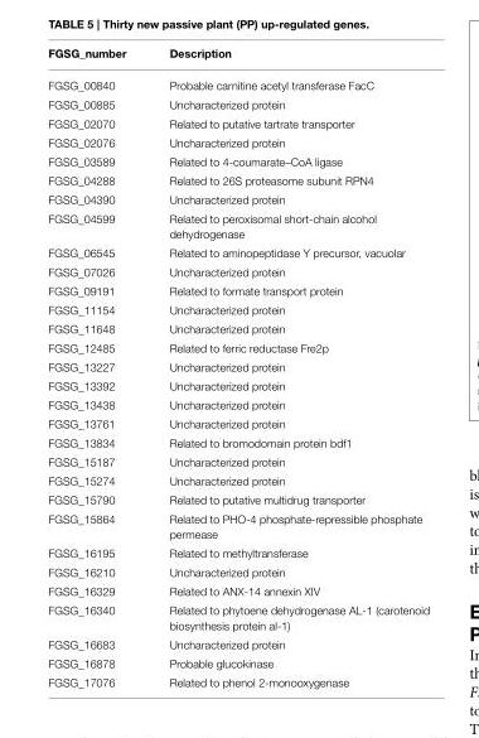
<table><thead><tr><td>FGSG_number</td><td>Description</td></tr></thead><tbody><tr><td>FGSG_00840</td><td>Probable carnitine acetyl transferase FacC</td></tr><tr><td>FGSG_00885</td><td>Uncharacterized protein</td></tr><tr><td>FGSG_02070</td><td>Related to putative tartrate transporter</td></tr><tr><td>FGSG_02076</td><td>Uncharacterized protein</td></tr><tr><td>FGSG_03589</td><td>Related to 4-coumarate–CoA ligase</td></tr><tr><td>FGSG_04288</td><td>Related to 26S proteasome subunit RPN4</td></tr><tr><td>FGSG_04390</td><td>Uncharacterized protein</td></tr><tr><td>FGSG_04599</td><td>Related to peroxisomal short-chain alcohol dehydrogenase</td></tr><tr><td>FGSG_06545</td><td>Related to aminopeptidase Y precursor, vacuolar</td></tr><tr><td>FGSG_07026</td><td>Uncharacterized protein</td></tr><tr><td>FGSG_09191</td><td>Related to formate transport protein</td></tr><tr><td>FGSG_11154</td><td>Uncharacterized protein</td></tr><tr><td>FGSG_11648</td><td>Uncharacterized protein</td></tr><tr><td>FGSG_12485</td><td>Related to ferric reductase Fre2p</td></tr><tr><td>FGSG_13227</td><td>Uncharacterized protein</td></tr><tr><td>FGSG_13392</td><td>Uncharacterized protein</td></tr><tr><td>FGSG_13438</td><td>Uncharacterized protein</td></tr><tr><td>FGSG_13761</td><td>Uncharacterized protein</td></tr><tr><td>FGSG_13834</td><td>Related to bromodomain protein bdf1</td></tr><tr><td>FGSG_15187</td><td>Uncharacterized protein</td></tr><tr><td>FGSG_15274</td><td>Uncharacterized protein</td></tr><tr><td>FGSG_15790</td><td>Related to putative multidrug transporter</td></tr><tr><td>FGSG_15864</td><td>Related to PHO-4 phosphate-repressible phosphate permease</td></tr><tr><td>FGSG_16195</td><td>Related to methyltransferase</td></tr><tr><td>FGSG_16210</td><td>Uncharacterized protein</td></tr><tr><td>FGSG_16329</td><td>Related to ANX-14 annexin XIV</td></tr><tr><td>FGSG_16340</td><td>Related to phytoene dehydrogenase AL-1 (carotenoid biosynthesis protein al-1)</td></tr><tr><td>FGSG_16683</td><td>Uncharacterized protein</td></tr><tr><td>FGSG_16878</td><td>Probable glucokinase</td></tr><tr><td>FGSG_17076</td><td>Related to phenol 2-monooxygenase</td></tr></tbody></table>